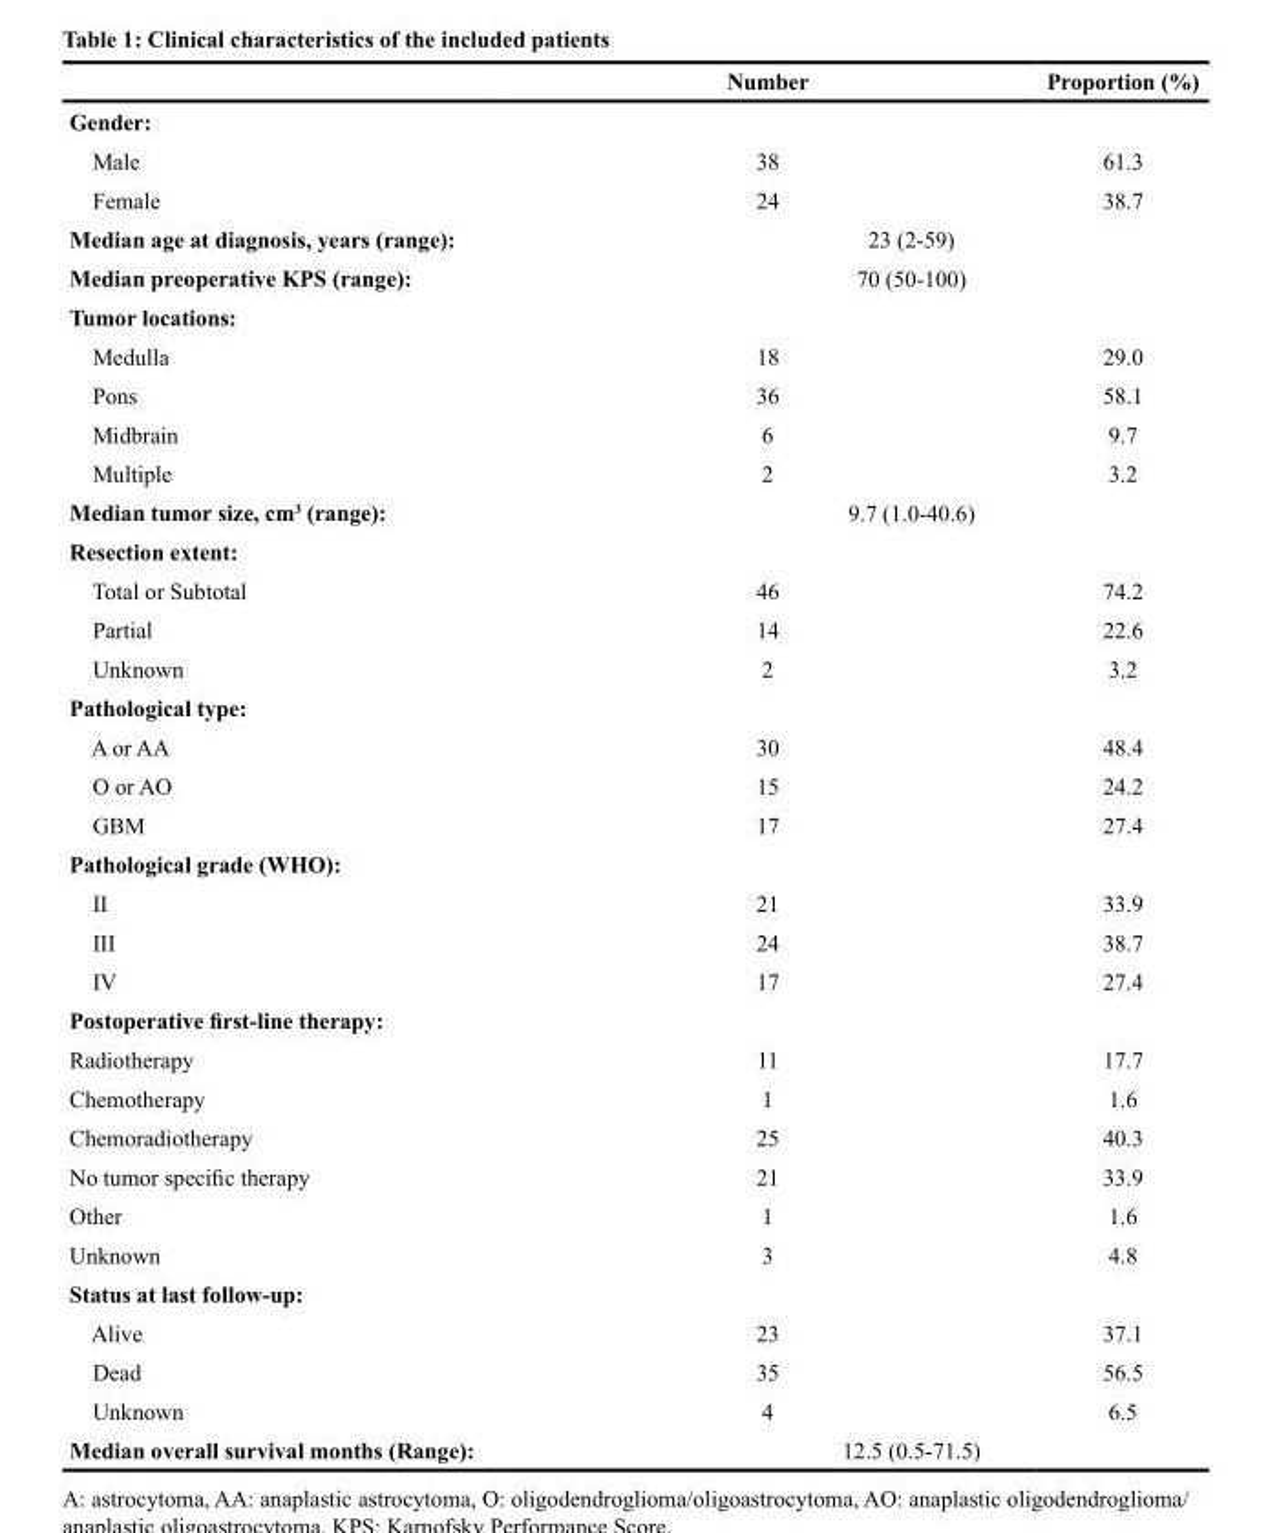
<table><thead><tr><td></td><td>Number</td><td>Proportion (%)</td></tr></thead><tbody><tr><td colspan="3">Gender:</td></tr><tr><td>Male</td><td>38</td><td>61.3</td></tr><tr><td>Female</td><td>24</td><td>38.7</td></tr><tr><td>Median age at diagnosis, years (range):</td><td colspan="2">23 (2-59)</td></tr><tr><td>Median preoperative KPS (range):</td><td colspan="2">70 (50-100)</td></tr><tr><td colspan="3">Tumor locations:</td></tr><tr><td>Medulla</td><td>18</td><td>29.0</td></tr><tr><td>Pons</td><td>36</td><td>58.1</td></tr><tr><td>Midbrain</td><td>6</td><td>9.7</td></tr><tr><td>Multiple</td><td>2</td><td>3.2</td></tr><tr><td>Median tumor size, cm<sup>3</sup> (range):</td><td colspan="2">9.7 (1.0-40.6)</td></tr><tr><td colspan="3">Resection extent:</td></tr><tr><td>Total or Subtotal</td><td>46</td><td>74.2</td></tr><tr><td>Partial</td><td>14</td><td>22.6</td></tr><tr><td>Unknown</td><td>2</td><td>3.2</td></tr><tr><td colspan="3">Pathological type:</td></tr><tr><td>A or AA</td><td>30</td><td>48.4</td></tr><tr><td>O or AO</td><td>15</td><td>24.2</td></tr><tr><td>GBM</td><td>17</td><td>27.4</td></tr><tr><td colspan="3">Pathological grade (WHO):</td></tr><tr><td>II</td><td>21</td><td>33.9</td></tr><tr><td>III</td><td>24</td><td>38.7</td></tr><tr><td>IV</td><td>17</td><td>27.4</td></tr><tr><td colspan="3">Postoperative first-line therapy:</td></tr><tr><td>Radiotherapy</td><td>11</td><td>17.7</td></tr><tr><td>Chemotherapy</td><td>1</td><td>1.6</td></tr><tr><td>Chemoradiotherapy</td><td>25</td><td>40.3</td></tr><tr><td>No tumor specific therapy</td><td>21</td><td>33.9</td></tr><tr><td>Other</td><td>1</td><td>1.6</td></tr><tr><td>Unknown</td><td>3</td><td>4.8</td></tr><tr><td colspan="3">Status at last follow-up:</td></tr><tr><td>Alive</td><td>23</td><td>37.1</td></tr><tr><td>Dead</td><td>35</td><td>56.5</td></tr><tr><td>Unknown</td><td>4</td><td>6.5</td></tr><tr><td>Median overall survival months (Range):</td><td colspan="2">12.5 (0.5-71.5)</td></tr></tbody></table>